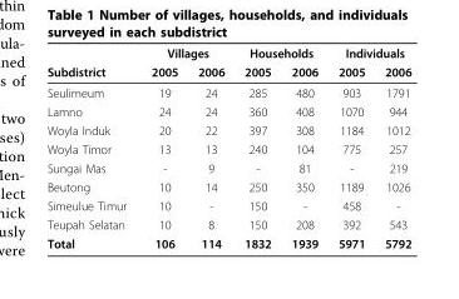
<table><thead><tr><td rowspan="2">Subdistrict</td><td colspan="2">Villages</td><td colspan="2">Households</td><td colspan="2">Individuals</td></tr><tr><td>2005</td><td>2006</td><td>2005</td><td>2006</td><td>2005</td><td>2006</td></tr></thead><tbody><tr><td>Seulimeum</td><td>19</td><td>24</td><td>285</td><td>480</td><td>903</td><td>1791</td></tr><tr><td>Lamno</td><td>24</td><td>24</td><td>360</td><td>408</td><td>1070</td><td>944</td></tr><tr><td>Woyla Induk</td><td>20</td><td>22</td><td>397</td><td>308</td><td>1184</td><td>1012</td></tr><tr><td>Woyla Timor</td><td>13</td><td>13</td><td>240</td><td>104</td><td>775</td><td>257</td></tr><tr><td>Sungai Mas</td><td>-</td><td>9</td><td>-</td><td>81</td><td>-</td><td>219</td></tr><tr><td>Beutong</td><td>10</td><td>14</td><td>250</td><td>350</td><td>1189</td><td>1026</td></tr><tr><td>Simeulue Timur</td><td>10</td><td>-</td><td>150</td><td>-</td><td>458</td><td>-</td></tr><tr><td>Teupah Selatan</td><td>10</td><td>8</td><td>150</td><td>208</td><td>392</td><td>543</td></tr><tr><td>Total</td><td>106</td><td>114</td><td>1832</td><td>1939</td><td>5971</td><td>5792</td></tr></tbody></table>